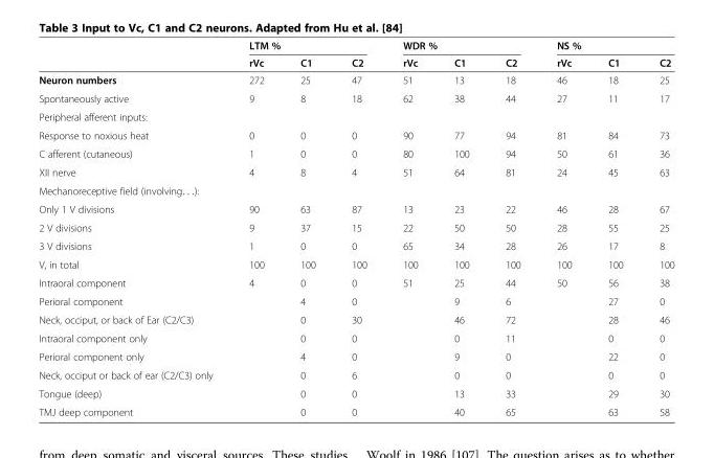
<table><thead><tr><td rowspan="2"></td><td colspan="3">LTM %</td><td colspan="3">WDR %</td><td colspan="3">NS %</td></tr><tr><td>rVc</td><td>C1</td><td>C2</td><td>rVc</td><td>C1</td><td>C2</td><td>rVc</td><td>C1</td><td>C2</td></tr></thead><tbody><tr><td>Neuron numbers</td><td>272</td><td>25</td><td>47</td><td>51</td><td>13</td><td>18</td><td>46</td><td>18</td><td>25</td></tr><tr><td>Spontaneously active</td><td>9</td><td>8</td><td>18</td><td>62</td><td>38</td><td>44</td><td>27</td><td>11</td><td>17</td></tr><tr><td colspan="10">Peripheral afferent inputs:</td></tr><tr><td>Response to noxious heat</td><td>0</td><td>0</td><td>0</td><td>90</td><td>77</td><td>94</td><td>81</td><td>84</td><td>73</td></tr><tr><td>C afferent (cutaneous)</td><td>1</td><td>0</td><td>0</td><td>80</td><td>100</td><td>94</td><td>50</td><td>61</td><td>36</td></tr><tr><td>XII nerve</td><td>4</td><td>8</td><td>4</td><td>51</td><td>64</td><td>81</td><td>24</td><td>45</td><td>63</td></tr><tr><td colspan="10">Mechanoreceptive field (involving. . .):</td></tr><tr><td>Only 1 V divisions</td><td>90</td><td>63</td><td>87</td><td>13</td><td>23</td><td>22</td><td>46</td><td>28</td><td>67</td></tr><tr><td>2 V divisions</td><td>9</td><td>37</td><td>15</td><td>22</td><td>50</td><td>50</td><td>28</td><td>55</td><td>25</td></tr><tr><td>3 V divisions</td><td>1</td><td>0</td><td>0</td><td>65</td><td>34</td><td>28</td><td>26</td><td>17</td><td>8</td></tr><tr><td>V, in total</td><td>100</td><td>100</td><td>100</td><td>100</td><td>100</td><td>100</td><td>100</td><td>100</td><td>100</td></tr><tr><td>Intraoral component</td><td>4</td><td>0</td><td>0</td><td>51</td><td>25</td><td>44</td><td>50</td><td>56</td><td>38</td></tr><tr><td>Perioral component</td><td></td><td>4</td><td>0</td><td></td><td>9</td><td>6</td><td></td><td>27</td><td>0</td></tr><tr><td>Neck, occiput, or back of Ear (C2/C3)</td><td></td><td>0</td><td>30</td><td></td><td>46</td><td>72</td><td></td><td>28</td><td>46</td></tr><tr><td>Intraoral component only</td><td></td><td>0</td><td>0</td><td></td><td>0</td><td>11</td><td></td><td>0</td><td>0</td></tr><tr><td>Perioral component only</td><td></td><td>4</td><td>0</td><td></td><td>9</td><td>0</td><td></td><td>22</td><td>0</td></tr><tr><td>Neck, occiput or back of ear (C2/C3) only</td><td></td><td>0</td><td>6</td><td></td><td>0</td><td>0</td><td></td><td>0</td><td>0</td></tr><tr><td>Tongue (deep)</td><td></td><td>0</td><td>0</td><td></td><td>13</td><td>33</td><td></td><td>29</td><td>30</td></tr><tr><td>TMJ deep component</td><td></td><td>0</td><td>0</td><td></td><td>40</td><td>65</td><td></td><td>63</td><td>58</td></tr></tbody></table>